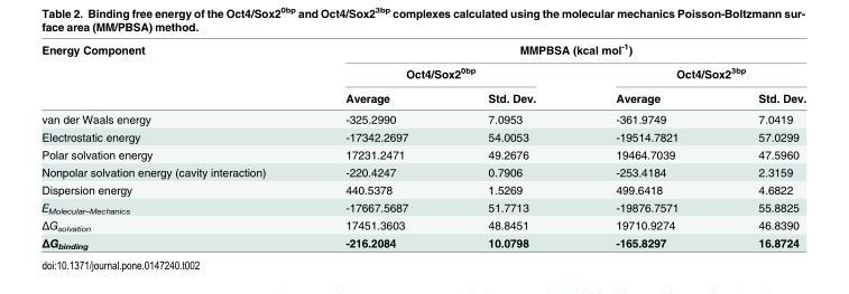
<table><thead><tr><td rowspan="3">Energy Component</td><td colspan="4">MMPBSA (kcal mol<sup>-1</sup>)</td></tr><tr><td colspan="2">Oct4/Sox2<sup>0bp</sup></td><td colspan="2">Oct4/Sox2<sup>3bp</sup></td></tr><tr><td>Average</td><td>Std. Dev.</td><td>Average</td><td>Std. Dev.</td></tr></thead><tbody><tr><td>van der Waals energy</td><td>-325.2990</td><td>7.0953</td><td>-361.9749</td><td>7.0419</td></tr><tr><td>Electrostatic energy</td><td>-17342.2697</td><td>54.0053</td><td>-19514.7821</td><td>57.0299</td></tr><tr><td>Polar solvation energy</td><td>17231.2471</td><td>49.2676</td><td>19464.7039</td><td>47.5960</td></tr><tr><td>Nonpolar solvation energy (cavity interaction)</td><td>-220.4247</td><td>0.7906</td><td>-253.4184</td><td>2.3159</td></tr><tr><td>Dispersion energy</td><td>440.5378</td><td>1.5269</td><td>499.6418</td><td>4.6822</td></tr><tr><td>E<sub>Molecular–Mechanics</sub></td><td>-17667.5687</td><td>51.7713</td><td>-19876.7571</td><td>55.8825</td></tr><tr><td>ΔGsolvation</td><td>17451.3603</td><td>48.8451</td><td>19710.9274</td><td>46.8390</td></tr><tr><td>ΔGbinding</td><td>-216.2084</td><td>10.0798</td><td>-165.8297</td><td>16.8724</td></tr></tbody></table>